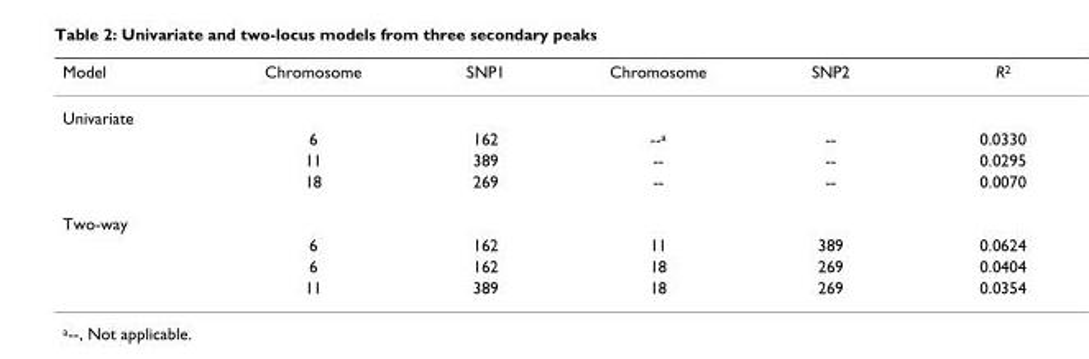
<table><thead><tr><td>Model</td><td>Chromosome</td><td>SNP1</td><td>Chromosome</td><td>SNP2</td><td>R<sup>2</sup></td></tr></thead><tbody><tr><td colspan="6">Univariate</td></tr><tr><td></td><td>6</td><td>162</td><td>--<sup>a</sup></td><td>--</td><td>0.0330</td></tr><tr><td></td><td>11</td><td>389</td><td>--</td><td>--</td><td>0.0295</td></tr><tr><td></td><td>18</td><td>269</td><td>--</td><td>--</td><td>0.0070</td></tr><tr><td colspan="6">Two-way</td></tr><tr><td></td><td>6</td><td>162</td><td>11</td><td>389</td><td>0.0624</td></tr><tr><td></td><td>6</td><td>162</td><td>18</td><td>269</td><td>0.0404</td></tr><tr><td></td><td>11</td><td>389</td><td>18</td><td>269</td><td>0.0354</td></tr></tbody></table>